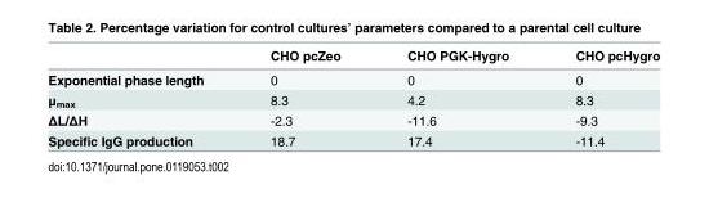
<table><thead><tr><td></td><td>CHO pcZeo</td><td>CHO PGK-Hygro</td><td>CHO pcHygro</td></tr></thead><tbody><tr><td>Exponential phase length</td><td>0</td><td>0</td><td>0</td></tr><tr><td>μ<sub>max</sub></td><td>8.3</td><td>4.2</td><td>8.3</td></tr><tr><td>ΔL/ΔH</td><td>-2.3</td><td>-11.6</td><td>-9.3</td></tr><tr><td>Specific IgG production</td><td>18.7</td><td>17.4</td><td>-11.4</td></tr></tbody></table>